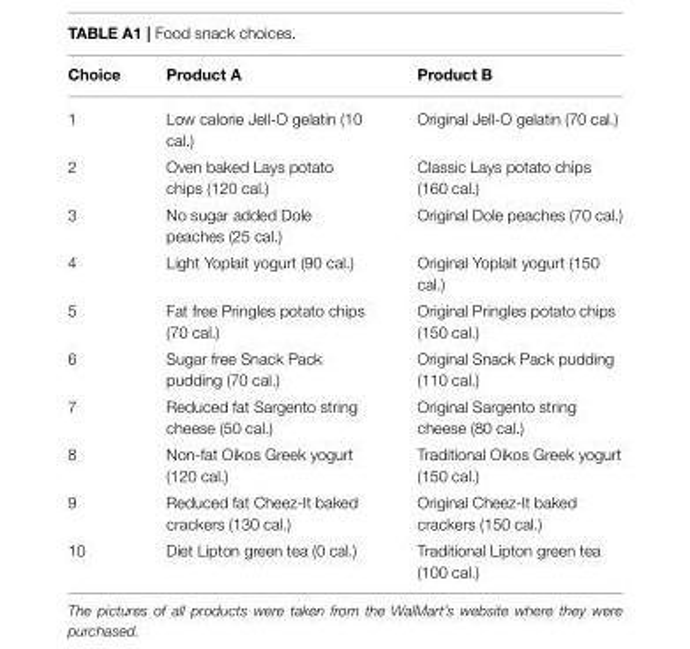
<table><thead><tr><td>Choice</td><td>Product A</td><td>Product B</td></tr></thead><tbody><tr><td>1</td><td>Low calorie Jell-O gelatin (10 cal.)</td><td>Original Jell-O gelatin (70 cal.)</td></tr><tr><td>2</td><td>Oven baked Lays potato chips (120 cal.)</td><td>Classic Lays potato chips (160 cal.)</td></tr><tr><td>3</td><td>No sugar added Dole peaches (25 cal.)</td><td>Original Dole peaches (70 cal.)</td></tr><tr><td>4</td><td>Light Yoplait yogurt (90 cal.)</td><td>Original Yoplait yogurt (150 cal.)</td></tr><tr><td>5</td><td>Fat free Pringles potato chips (70 cal.)</td><td>Original Pringles potato chips (150 cal.)</td></tr><tr><td>6</td><td>Sugar free Snack Pack pudding (70 cal.)</td><td>Original Snack Pack pudding (110 cal.)</td></tr><tr><td>7</td><td>Reduced fat Sargento string cheese (50 cal.)</td><td>Original Sargento string cheese (80 cal.)</td></tr><tr><td>8</td><td>Non-fat Oikos Greek yogurt (120 cal.)</td><td>Traditional Oikos Greek yogurt (150 cal.)</td></tr><tr><td>9</td><td>Reduced fat Cheez-It baked crackers (130 cal.)</td><td>Original Cheez-It baked crackers (150 cal.)</td></tr><tr><td>10</td><td>Diet Lipton green tea (0 cal.)</td><td>Traditional Lipton green tea (100 cal.)</td></tr></tbody></table>